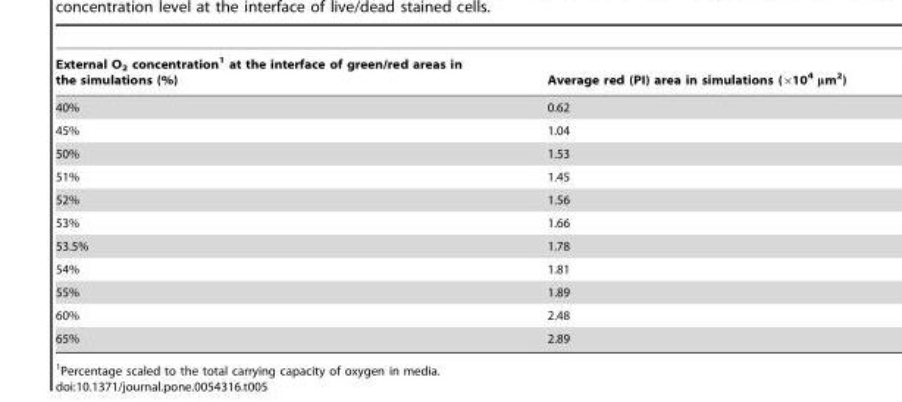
<table><thead><tr><td>External O<sub>2</sub> concentration<sup>1</sup> at the interface of green/red areas in the simulations (%)</td><td>Average red (PI) area in simulations (×10<sup>4</sup> μm<sup>2</sup>)</td></tr></thead><tbody><tr><td>40%</td><td>0.62</td></tr><tr><td>45%</td><td>1.04</td></tr><tr><td>50%</td><td>1.53</td></tr><tr><td>51%</td><td>1.45</td></tr><tr><td>52%</td><td>1.56</td></tr><tr><td>53%</td><td>1.66</td></tr><tr><td>53.5%</td><td>1.78</td></tr><tr><td>54%</td><td>1.81</td></tr><tr><td>55%</td><td>1.89</td></tr><tr><td>60%</td><td>2.48</td></tr><tr><td>65%</td><td>2.89</td></tr></tbody></table>